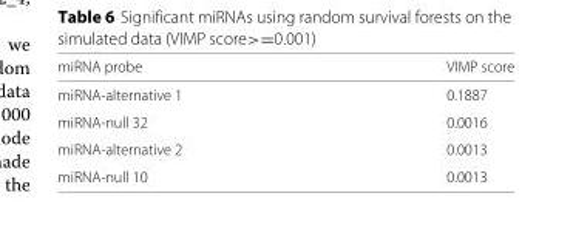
<table><thead><tr><td>miRNA probe</td><td>VIMP score</td></tr></thead><tbody><tr><td>miRNA-alternative 1</td><td>0.1887</td></tr><tr><td>miRNA-null 32</td><td>0.0016</td></tr><tr><td>miRNA-alternative 2</td><td>0.0013</td></tr><tr><td>miRNA-null 10</td><td>0.0013</td></tr></tbody></table>